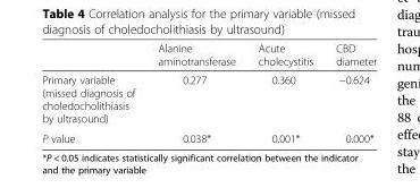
<table><thead><tr><td></td><td>Alanine aminotransferase</td><td>Acute cholecystitis</td><td>CBD diameter</td></tr></thead><tbody><tr><td>Primary variable (missed diagnosis of choledocholithiasis by ultrasound)</td><td>0.277</td><td>0.360</td><td>−0.624</td></tr><tr><td>P value</td><td>0.038*</td><td>0.001*</td><td>0.000*</td></tr></tbody></table>